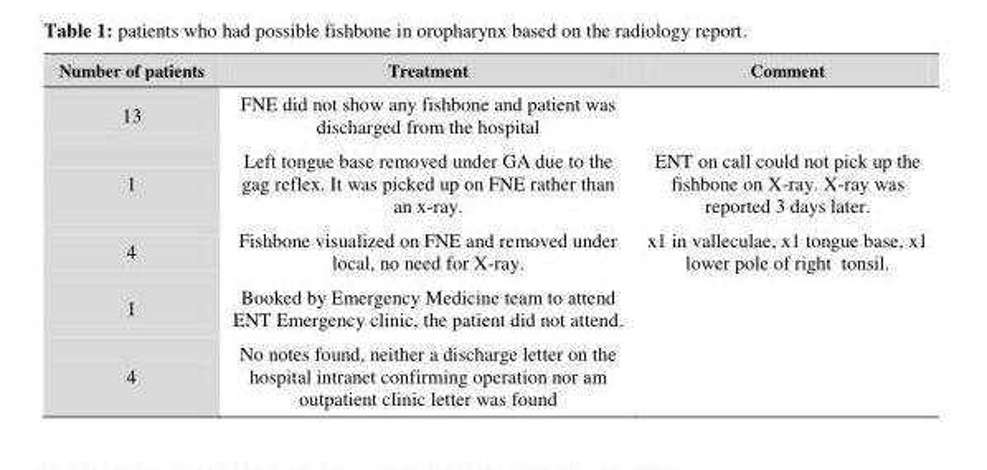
<table><thead><tr><td>Number of patients</td><td>Treatment</td><td>Comment</td></tr></thead><tbody><tr><td>13</td><td>FNE did not show any fishbone and patient was discharged from the hospital</td><td></td></tr><tr><td>1</td><td>Left tongue base removed under GA due to the gag reflex. It was picked up on FNE rather than an x-ray.</td><td>ENT on call could not pick up the fishbone on X-ray. X-ray was reported 3 days later.</td></tr><tr><td>4</td><td>Fishbone visualized on FNE and removed under local, no need for X-ray.</td><td>x1 in valleculae, x1 tongue base, x1 lower pole of right tonsil.</td></tr><tr><td>1</td><td>Booked by Emergency Medicine team to attend ENT Emergency clinic, the patient did not attend.</td><td></td></tr><tr><td>4</td><td>No notes found, neither a discharge letter on the hospital intranet confirming operation nor am outpatient clinic letter was found</td><td></td></tr></tbody></table>